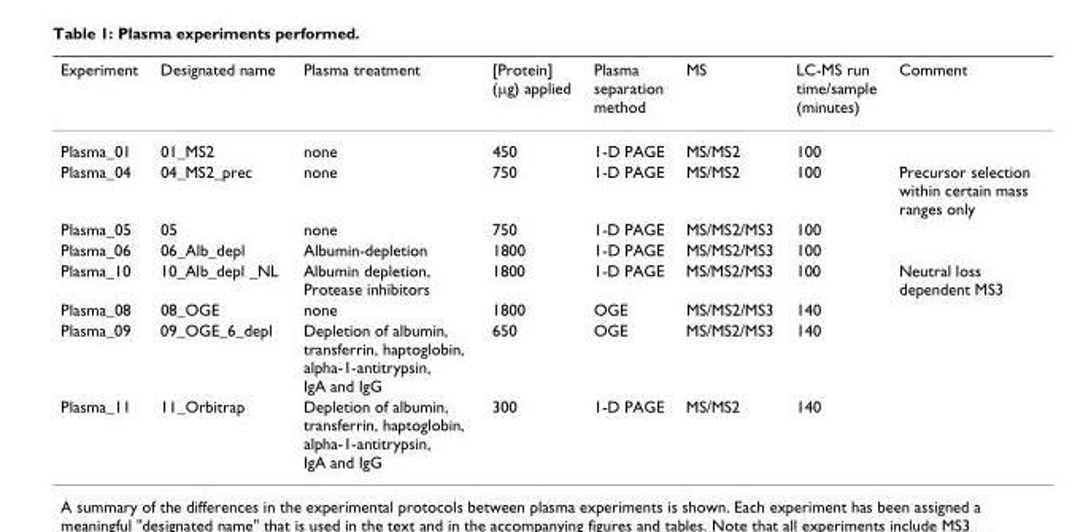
<table><thead><tr><td>Experiment</td><td>Designated name</td><td>Plasma treatment</td><td>[Protein] (μg) applied</td><td>Plasma separation method</td><td>MS</td><td>LC-MS run time/sample (minutes)</td><td>Comment</td></tr></thead><tbody><tr><td>Plasma_01</td><td>01_MS2</td><td>none</td><td>450</td><td>1-D PAGE</td><td>MS/MS2</td><td>100</td><td></td></tr><tr><td>Plasma_04</td><td>04_MS2_prec</td><td>none</td><td>750</td><td>1-D PAGE</td><td>MS/MS2</td><td>100</td><td>Precursor selection within certain mass ranges only</td></tr><tr><td>Plasma_05</td><td>05</td><td>none</td><td>750</td><td>1-D PAGE</td><td>MS/MS2/MS3</td><td>100</td><td></td></tr><tr><td>Plasma_06</td><td>06_Alb_depl</td><td>Albumin-depletion</td><td>1800</td><td>1-D PAGE</td><td>MS/MS2/MS3</td><td>100</td><td></td></tr><tr><td>Plasma_10</td><td>10_Alb_depl _NL</td><td>Albumin depletion, Protease inhibitors</td><td>1800</td><td>1-D PAGE</td><td>MS/MS2/MS3</td><td>100</td><td>Neutral loss dependent MS3</td></tr><tr><td>Plasma_08</td><td>08_OGE</td><td>none</td><td>1800</td><td>OGE</td><td>MS/MS2/MS3</td><td>140</td><td></td></tr><tr><td>Plasma_09</td><td>09_OGE_6_depl</td><td>Depletion of albumin, transferrin, haptoglobin, alpha-1-antitrypsin, IgA and IgG</td><td>650</td><td>OGE</td><td>MS/MS2/MS3</td><td>140</td><td></td></tr><tr><td>Plasma_11</td><td>11_Orbitrap</td><td>Depletion of albumin, transferrin, haptoglobin, alpha-1-antitrypsin, IgA and IgG</td><td>300</td><td>1-D PAGE</td><td>MS/MS2</td><td>140</td><td></td></tr></tbody></table>